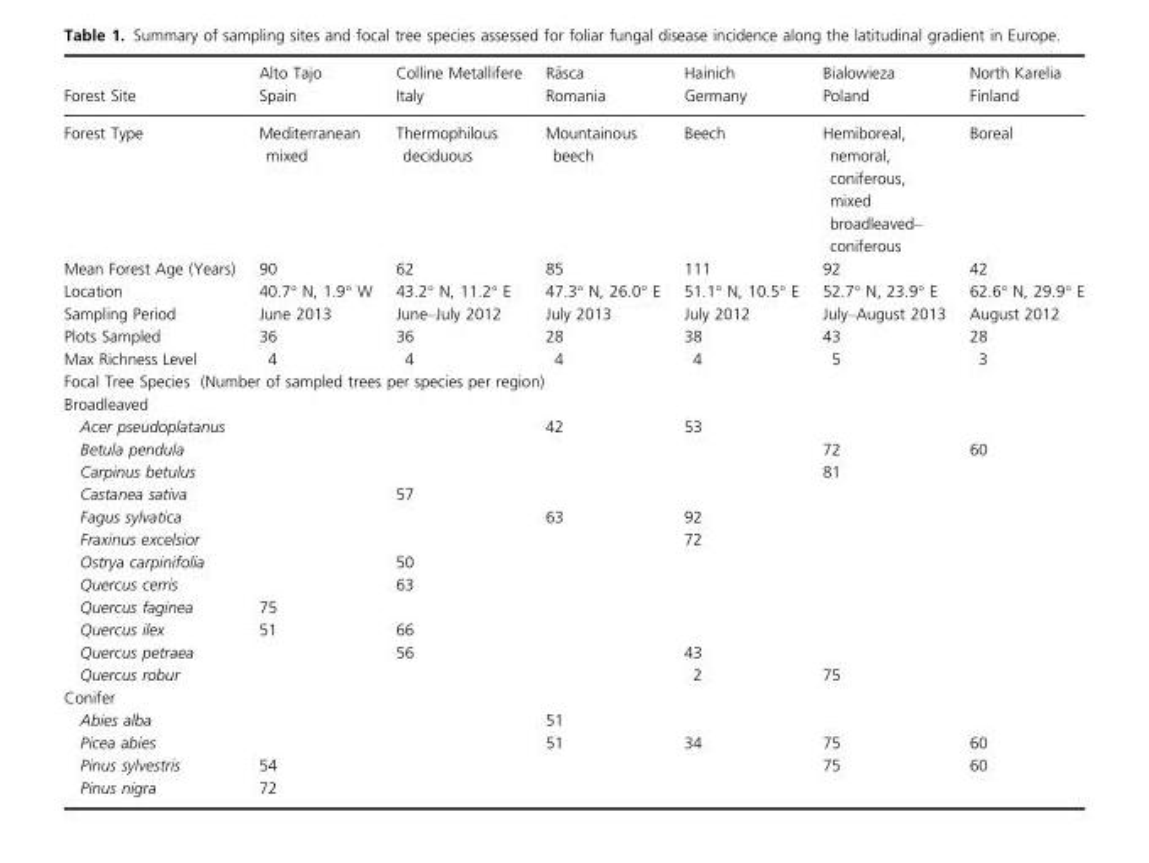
<table><thead><tr><td rowspan="2">Forest Site</td><td rowspan="2">Alto Tajo Spain</td><td rowspan="2">Colline Metallifere Italy</td><td rowspan="2">R^asca Romania</td><td rowspan="2">Hainich Germany</td><td rowspan="2">Bialowieza Poland</td><td rowspan="2">North Karelia Finland</td></tr><tr></tr></thead><tbody><tr><td>Forest Type</td><td>Mediterranean mixed</td><td>Thermophilous deciduous</td><td>Mountainous beech</td><td>Beech</td><td>Hemiboreal, nemoral, coniferous, mixed broadleaved– coniferous</td><td>Boreal</td></tr><tr><td>Mean Forest Age (Years)</td><td>90</td><td>62</td><td>85</td><td>111</td><td>92</td><td>42</td></tr><tr><td>Location</td><td>40.7° N, 1.9° W</td><td>43.2° N, 11.2° E</td><td>47.3° N, 26.0° E</td><td>51.1° N, 10.5° E</td><td>52.7° N, 23.9° E</td><td>62.6° N, 29.9° E</td></tr><tr><td>Sampling Period</td><td>June 2013</td><td>June–July 2012</td><td>July 2013</td><td>July 2012</td><td>July–August 2013</td><td>August 2012</td></tr><tr><td>Plots Sampled</td><td>36</td><td>36</td><td>28</td><td>38</td><td>43</td><td>28</td></tr><tr><td>Max Richness Level</td><td>4</td><td>4</td><td>4</td><td>4</td><td>5</td><td>3</td></tr><tr><td colspan="7">Focal Tree Species (Number of sampled trees per species per region)</td></tr><tr><td colspan="7">Broadleaved</td></tr><tr><td>Acer pseudoplatanus</td><td></td><td></td><td>42</td><td>53</td><td></td><td></td></tr><tr><td>Betula pendula</td><td></td><td></td><td></td><td></td><td>72</td><td>60</td></tr><tr><td>Carpinus betulus</td><td></td><td></td><td></td><td></td><td>81</td><td></td></tr><tr><td>Castanea sativa</td><td></td><td>57</td><td></td><td></td><td></td><td></td></tr><tr><td>Fagus sylvatica</td><td></td><td></td><td>63</td><td>92</td><td></td><td></td></tr><tr><td>Fraxinus excelsior</td><td></td><td></td><td></td><td>72</td><td></td><td></td></tr><tr><td>Ostrya carpinifolia</td><td></td><td>50</td><td></td><td></td><td></td><td></td></tr><tr><td>Quercus cerris</td><td></td><td>63</td><td></td><td></td><td></td><td></td></tr><tr><td>Quercus faginea</td><td>75</td><td></td><td></td><td></td><td></td><td></td></tr><tr><td>Quercus ilex</td><td>51</td><td>66</td><td></td><td></td><td></td><td></td></tr><tr><td>Quercus petraea</td><td></td><td>56</td><td></td><td>43</td><td></td><td></td></tr><tr><td>Quercus robur</td><td></td><td></td><td></td><td>2</td><td>75</td><td></td></tr><tr><td colspan="7">Conifer</td></tr><tr><td>Abies alba</td><td></td><td></td><td>51</td><td></td><td></td><td></td></tr><tr><td>Picea abies</td><td></td><td></td><td>51</td><td>34</td><td>75</td><td>60</td></tr><tr><td>Pinus sylvestris</td><td>54</td><td></td><td></td><td></td><td>75</td><td>60</td></tr><tr><td>Pinus nigra</td><td>72</td><td></td><td></td><td></td><td></td><td></td></tr></tbody></table>